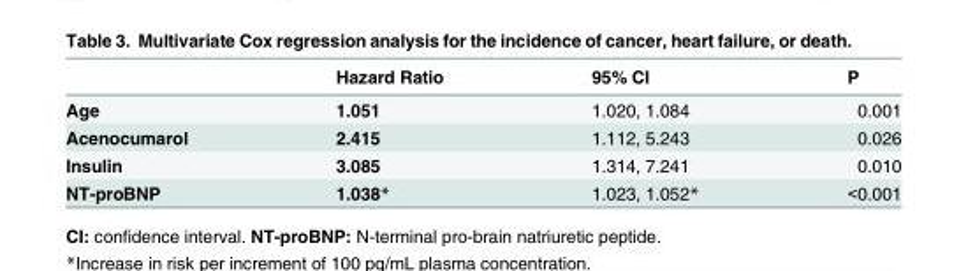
<table><thead><tr><td></td><td>Hazard Ratio</td><td>95% CI</td><td>P</td></tr></thead><tbody><tr><td>Age</td><td>1.051</td><td>1.020, 1.084</td><td>0.001</td></tr><tr><td>Acenocumarol</td><td>2.415</td><td>1.112, 5.243</td><td>0.026</td></tr><tr><td>Insulin</td><td>3.085</td><td>1.314, 7.241</td><td>0.010</td></tr><tr><td>NT-proBNP</td><td>1.038*</td><td>1.023, 1.052*</td><td>&lt;0.001</td></tr></tbody></table>